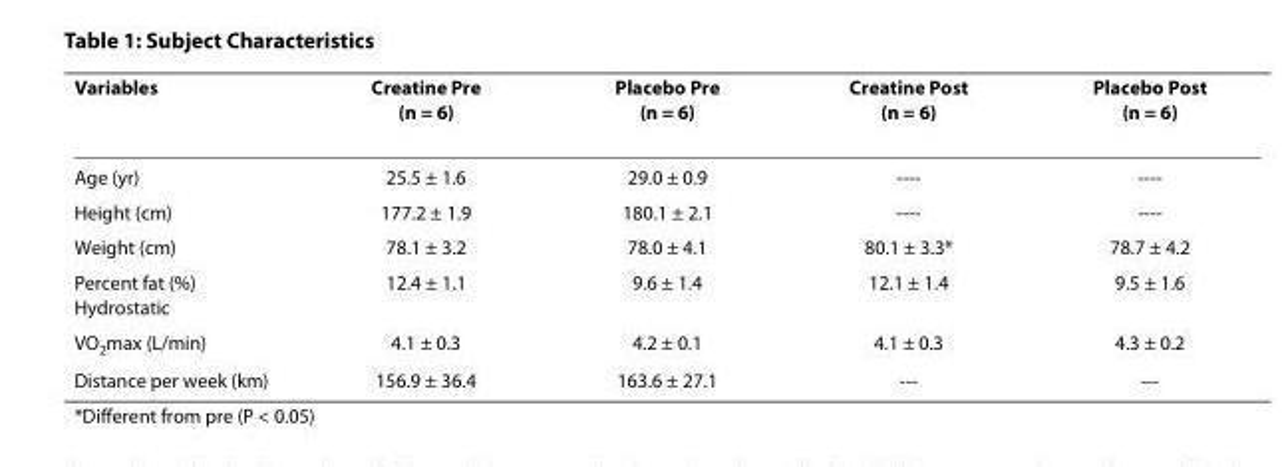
<table><thead><tr><td>Variables</td><td>Creatine Pre (n = 6)</td><td>Placebo Pre (n = 6)</td><td>Creatine Post (n = 6)</td><td>Placebo Post (n = 6)</td></tr></thead><tbody><tr><td>Age (yr)</td><td>25.5 ± 1.6</td><td>29.0 ± 0.9</td><td>----</td><td>----</td></tr><tr><td>Height (cm)</td><td>177.2 ± 1.9</td><td>180.1 ± 2.1</td><td>----</td><td>----</td></tr><tr><td>Weight (cm)</td><td>78.1 ± 3.2</td><td>78.0 ± 4.1</td><td>80.1 ± 3.3*</td><td>78.7 ± 4.2</td></tr><tr><td>Percent fat (%) Hydrostatic</td><td>12.4 ± 1.1</td><td>9.6 ± 1.4</td><td>12.1 ± 1.4</td><td>9.5 ± 1.6</td></tr><tr><td>VO<sub>2</sub>max (L/min)</td><td>4.1 ± 0.3</td><td>4.2 ± 0.1</td><td>4.1 ± 0.3</td><td>4.3 ± 0.2</td></tr><tr><td>Distance per week (km)</td><td>156.9 ± 36.4</td><td>163.6 ± 27.1</td><td>---</td><td>---</td></tr></tbody></table>